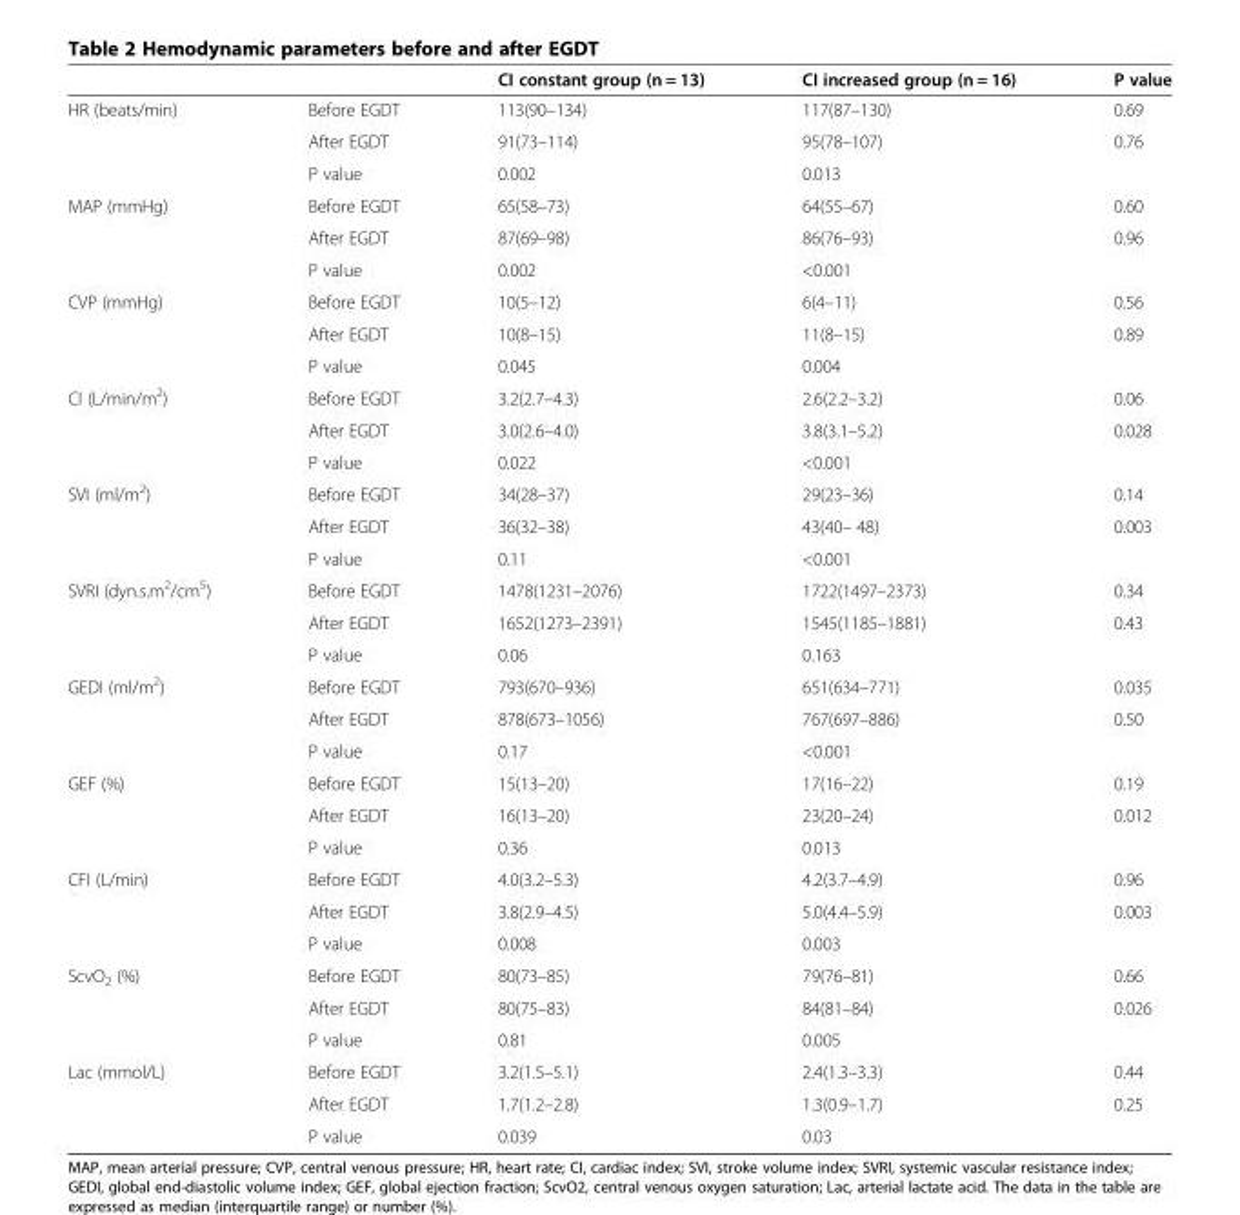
<table><thead><tr><td></td><td></td><td>CI constant group (n = 13)</td><td>CI increased group (n = 16)</td><td>P value</td></tr></thead><tbody><tr><td rowspan="3">HR (beats/min)</td><td>Before EGDT</td><td>113(90–134)</td><td>117(87–130)</td><td>0.69</td></tr><tr><td>After EGDT</td><td>91(73–114)</td><td>95(78–107)</td><td>0.76</td></tr><tr><td>P value</td><td>0.002</td><td>0.013</td><td></td></tr><tr><td rowspan="3">MAP (mmHg)</td><td>Before EGDT</td><td>65(58–73)</td><td>64(55–67)</td><td>0.60</td></tr><tr><td>After EGDT</td><td>87(69–98)</td><td>86(76–93)</td><td>0.96</td></tr><tr><td>P value</td><td>0.002</td><td>&lt;0.001</td><td></td></tr><tr><td rowspan="3">CVP (mmHg)</td><td>Before EGDT</td><td>10(5–12)</td><td>6(4–11)</td><td>0.56</td></tr><tr><td>After EGDT</td><td>10(8–15)</td><td>11(8–15)</td><td>0.89</td></tr><tr><td>P value</td><td>0.045</td><td>0.004</td><td></td></tr><tr><td rowspan="3">CI (L/min/m<sup>2</sup>)</td><td>Before EGDT</td><td>3.2(2.7–4.3)</td><td>2.6(2.2–3.2)</td><td>0.06</td></tr><tr><td>After EGDT</td><td>3.0(2.6–4.0)</td><td>3.8(3.1–5.2)</td><td>0.028</td></tr><tr><td>P value</td><td>0.022</td><td>&lt;0.001</td><td></td></tr><tr><td rowspan="3">SVI (ml/m<sup>2</sup>)</td><td>Before EGDT</td><td>34(28–37)</td><td>29(23–36)</td><td>0.14</td></tr><tr><td>After EGDT</td><td>36(32–38)</td><td>43(40– 48)</td><td>0.003</td></tr><tr><td>P value</td><td>0.11</td><td>&lt;0.001</td><td></td></tr><tr><td rowspan="3">SVRI (dyn.s.m<sup>2</sup>/cm<sup>5</sup>)</td><td>Before EGDT</td><td>1478(1231–2076)</td><td>1722(1497–2373)</td><td>0.34</td></tr><tr><td>After EGDT</td><td>1652(1273–2391)</td><td>1545(1185–1881)</td><td>0.43</td></tr><tr><td>P value</td><td>0.06</td><td>0.163</td><td></td></tr><tr><td rowspan="3">GEDI (ml/m<sup>2</sup>)</td><td>Before EGDT</td><td>793(670–936)</td><td>651(634–771)</td><td>0.035</td></tr><tr><td>After EGDT</td><td>878(673–1056)</td><td>767(697–886)</td><td>0.50</td></tr><tr><td>P value</td><td>0.17</td><td>&lt;0.001</td><td></td></tr><tr><td rowspan="3">GEF (%)</td><td>Before EGDT</td><td>15(13–20)</td><td>17(16–22)</td><td>0.19</td></tr><tr><td>After EGDT</td><td>16(13–20)</td><td>23(20–24)</td><td>0.012</td></tr><tr><td>P value</td><td>0.36</td><td>0.013</td><td></td></tr><tr><td rowspan="3">CFI (L/min)</td><td>Before EGDT</td><td>4.0(3.2–5.3)</td><td>4.2(3.7–4.9)</td><td>0.96</td></tr><tr><td>After EGDT</td><td>3.8(2.9–4.5)</td><td>5.0(4.4–5.9)</td><td>0.003</td></tr><tr><td>P value</td><td>0.008</td><td>0.003</td><td></td></tr><tr><td rowspan="3">ScvO<sub>2</sub> (%)</td><td>Before EGDT</td><td>80(73–85)</td><td>79(76–81)</td><td>0.66</td></tr><tr><td>After EGDT</td><td>80(75–83)</td><td>84(81–84)</td><td>0.026</td></tr><tr><td>P value</td><td>0.81</td><td>0.005</td><td></td></tr><tr><td rowspan="3">Lac (mmol/L)</td><td>Before EGDT</td><td>3.2(1.5–5.1)</td><td>2.4(1.3–3.3)</td><td>0.44</td></tr><tr><td>After EGDT</td><td>1.7(1.2–2.8)</td><td>1.3(0.9–1.7)</td><td>0.25</td></tr><tr><td>P value</td><td>0.039</td><td>0.03</td><td></td></tr></tbody></table>